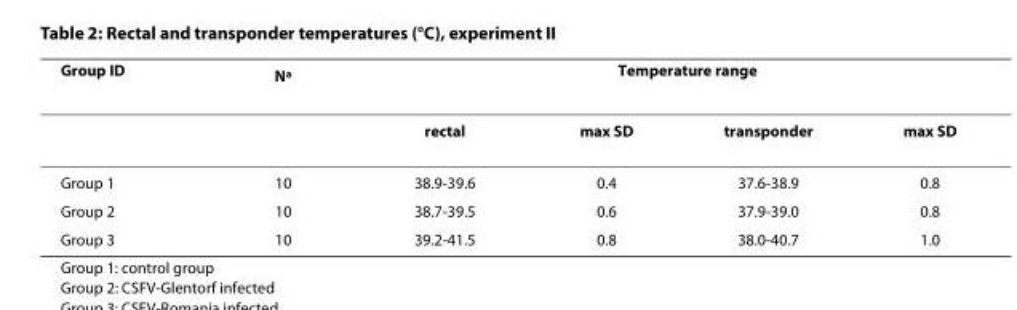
<table><thead><tr><td rowspan="2">Group ID</td><td rowspan="2">N<sup>a</sup></td><td colspan="4">Temperature range</td></tr><tr><td>rectal</td><td>max SD</td><td>transponder</td><td>max SD</td></tr></thead><tbody><tr><td>Group 1</td><td>10</td><td>38.9-39.6</td><td>0.4</td><td>37.6-38.9</td><td>0.8</td></tr><tr><td>Group 2</td><td>10</td><td>38.7-39.5</td><td>0.6</td><td>37.9-39.0</td><td>0.8</td></tr><tr><td>Group 3</td><td>10</td><td>39.2-41.5</td><td>0.8</td><td>38.0-40.7</td><td>1.0</td></tr></tbody></table>